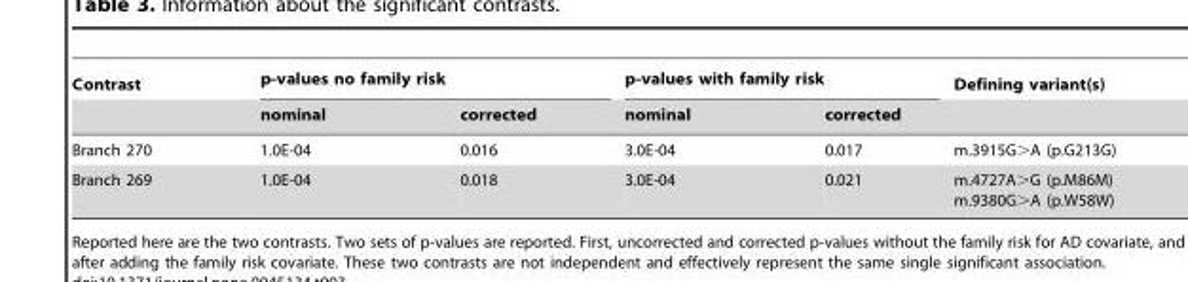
<table><thead><tr><td rowspan="2">Contrast</td><td colspan="2">p-values no family risk</td><td colspan="2">p-values with family risk</td><td rowspan="2">Defining variant(s)</td></tr><tr><td>nominal</td><td>corrected</td><td>nominal</td><td>corrected</td></tr></thead><tbody><tr><td>Branch 270</td><td>1.0E-04</td><td>0.016</td><td>3.0E-04</td><td>0.017</td><td>m.3915G&gt;A (p.G213G)</td></tr><tr><td>Branch 269</td><td>1.0E-04</td><td>0.018</td><td>3.0E-04</td><td>0.021</td><td>m.4727A&gt;G (p.M86M) m.9380G&gt;A (p.W58W)</td></tr></tbody></table>